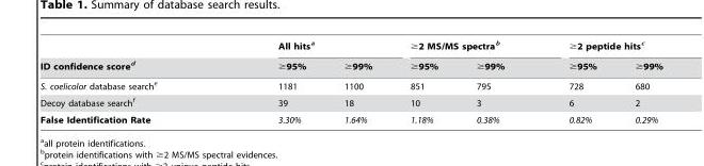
<table><thead><tr><td rowspan="2">ID confidence score<sup>d</sup></td><td colspan="2">All hits<sup>a</sup></td><td colspan="2">≥2 MS/MS spectra<sup>b</sup></td><td colspan="2">≥2 peptide hits<sup>c</sup></td></tr><tr><td>≥95%</td><td>≥99%</td><td>≥95%</td><td>≥99%</td><td>≥95%</td><td>≥99%</td></tr></thead><tbody><tr><td>S. coelicolor database search<sup>e</sup></td><td>1181</td><td>1100</td><td>851</td><td>795</td><td>728</td><td>680</td></tr><tr><td>Decoy database search<sup>f</sup></td><td>39</td><td>18</td><td>10</td><td>3</td><td>6</td><td>2</td></tr><tr><td>False Identification Rate</td><td>3.30%</td><td>1.64%</td><td>1.18%</td><td>0.38%</td><td>0.82%</td><td>0.29%</td></tr></tbody></table>